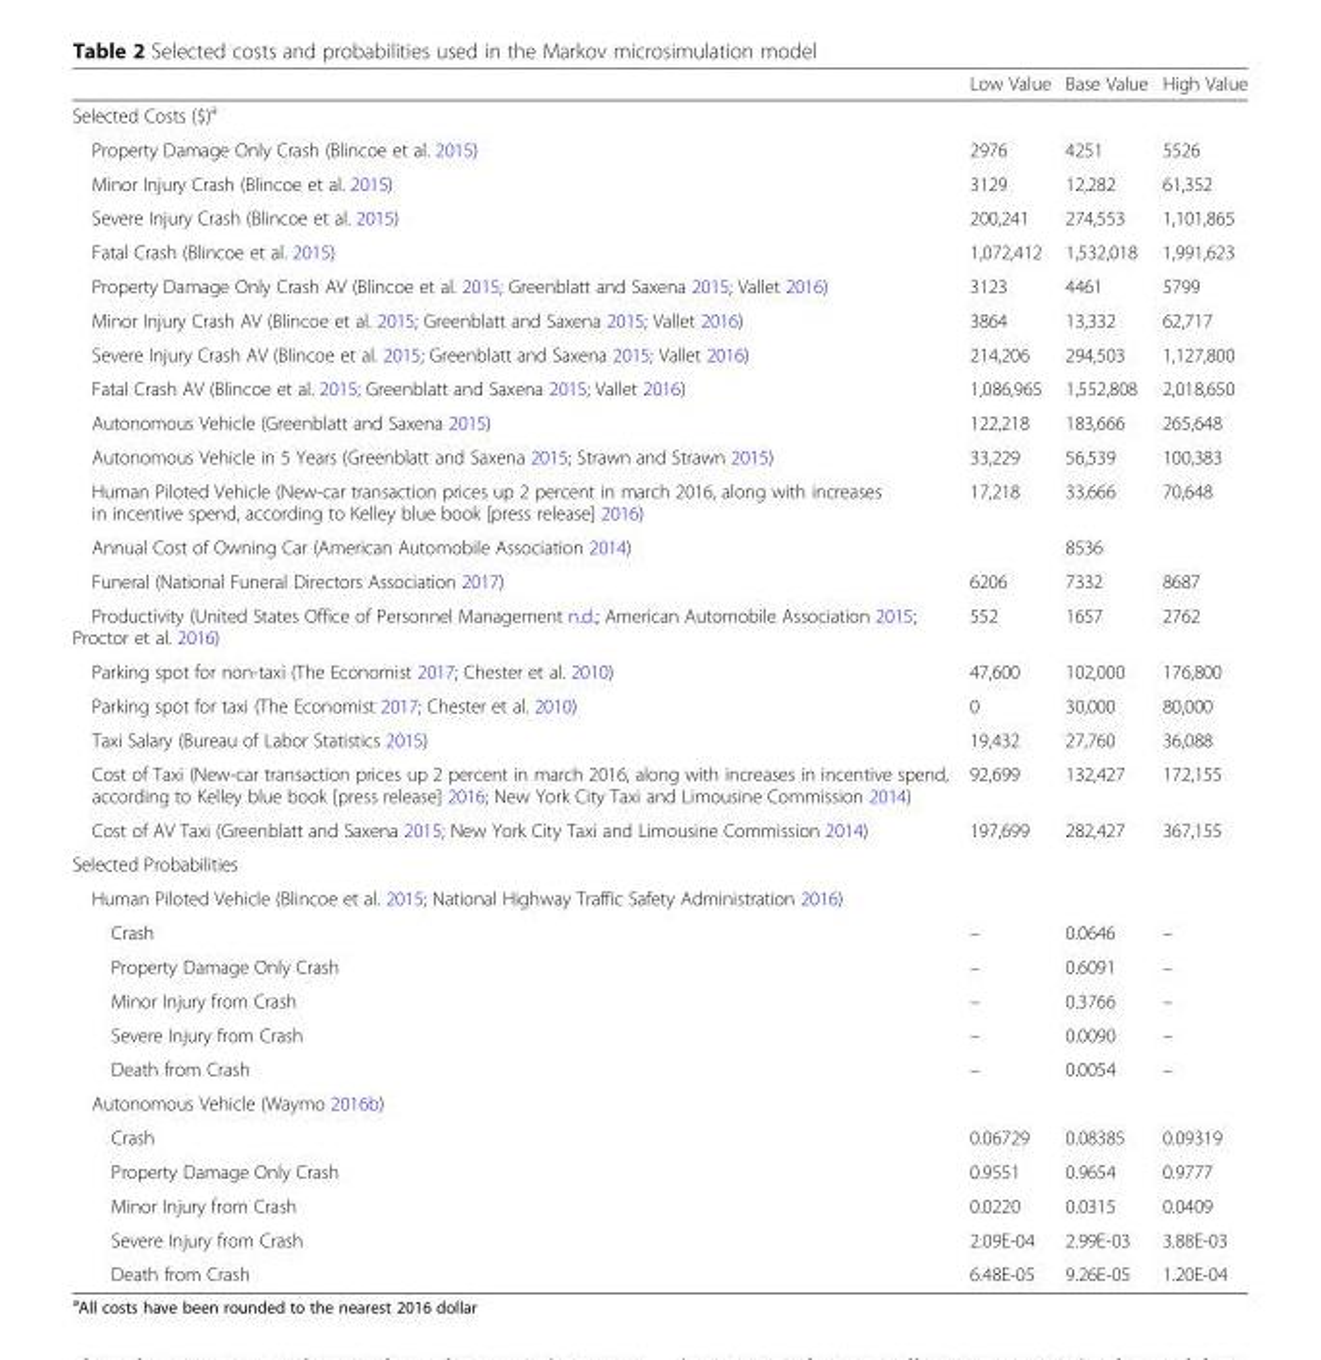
<table><thead><tr><td></td><td>Low Value</td><td>Base Value</td><td>High Value</td></tr></thead><tbody><tr><td colspan="4">Selected Costs ($)<sup>a</sup></td></tr><tr><td>Property Damage Only Crash (Blincoe et al. 2015)</td><td>2976</td><td>4251</td><td>5526</td></tr><tr><td>Minor Injury Crash (Blincoe et al. 2015)</td><td>3129</td><td>12,282</td><td>61,352</td></tr><tr><td>Severe Injury Crash (Blincoe et al. 2015)</td><td>200,241</td><td>274,553</td><td>1,101,865</td></tr><tr><td>Fatal Crash (Blincoe et al. 2015)</td><td>1,072,412</td><td>1,532,018</td><td>1,991,623</td></tr><tr><td>Property Damage Only Crash AV (Blincoe et al. 2015; Greenblatt and Saxena 2015; Vallet 2016)</td><td>3123</td><td>4461</td><td>5799</td></tr><tr><td>Minor Injury Crash AV (Blincoe et al. 2015; Greenblatt and Saxena 2015; Vallet 2016)</td><td>3864</td><td>13,332</td><td>62,717</td></tr><tr><td>Severe Injury Crash AV (Blincoe et al. 2015; Greenblatt and Saxena 2015; Vallet 2016)</td><td>214,206</td><td>294,503</td><td>1,127,800</td></tr><tr><td>Fatal Crash AV (Blincoe et al. 2015; Greenblatt and Saxena 2015; Vallet 2016)</td><td>1,086,965</td><td>1,552,808</td><td>2,018,650</td></tr><tr><td>Autonomous Vehicle (Greenblatt and Saxena 2015)</td><td>122,218</td><td>183,666</td><td>265,648</td></tr><tr><td>Autonomous Vehicle in 5 Years (Greenblatt and Saxena 2015; Strawn and Strawn 2015)</td><td>33,229</td><td>56,539</td><td>100,383</td></tr><tr><td>Human Piloted Vehicle (New-car transaction prices up 2 percent in march 2016, along with increases in incentive spend, according to Kelley blue book [press release] 2016)</td><td>17,218</td><td>33,666</td><td>70,648</td></tr><tr><td>Annual Cost of Owning Car (American Automobile Association 2014)</td><td></td><td>8536</td><td></td></tr><tr><td>Funeral (National Funeral Directors Association 2017)</td><td>6206</td><td>7332</td><td>8687</td></tr><tr><td>Productivity (United States Office of Personnel Management n.d.; American Automobile Association 2015; Proctor et al. 2016)</td><td>552</td><td>1657</td><td>2762</td></tr><tr><td>Parking spot for non-taxi (The Economist 2017; Chester et al. 2010)</td><td>47,600</td><td>102,000</td><td>176,800</td></tr><tr><td>Parking spot for taxi (The Economist 2017; Chester et al. 2010)</td><td>0</td><td>30,000</td><td>80,000</td></tr><tr><td>Taxi Salary (Bureau of Labor Statistics 2015)</td><td>19,432</td><td>27,760</td><td>36,088</td></tr><tr><td>Cost of Taxi (New-car transaction prices up 2 percent in march 2016, along with increases in incentive spend, according to Kelley blue book [press release] 2016; New York City Taxi and Limousine Commission 2014)</td><td>92,699</td><td>132,427</td><td>172,155</td></tr><tr><td>Cost of AV Taxi (Greenblatt and Saxena 2015; New York City Taxi and Limousine Commission 2014)</td><td>197,699</td><td>282,427</td><td>367,155</td></tr><tr><td colspan="4">Selected Probabilities</td></tr><tr><td colspan="4">Human Piloted Vehicle (Blincoe et al. 2015; National Highway Traffic Safety Administration 2016)</td></tr><tr><td>Crash</td><td>–</td><td>0.0646</td><td>–</td></tr><tr><td>Property Damage Only Crash</td><td>–</td><td>0.6091</td><td>–</td></tr><tr><td>Minor Injury from Crash</td><td>–</td><td>0.3766</td><td>–</td></tr><tr><td>Severe Injury from Crash</td><td>–</td><td>0.0090</td><td>–</td></tr><tr><td>Death from Crash</td><td>–</td><td>0.0054</td><td>–</td></tr><tr><td colspan="4">Autonomous Vehicle (Waymo 2016b)</td></tr><tr><td>Crash</td><td>0.06729</td><td>0.08385</td><td>0.09319</td></tr><tr><td>Property Damage Only Crash</td><td>0.9551</td><td>0.9654</td><td>0.9777</td></tr><tr><td>Minor Injury from Crash</td><td>0.0220</td><td>0.0315</td><td>0.0409</td></tr><tr><td>Severe Injury from Crash</td><td>2.09E-04</td><td>2.99E-03</td><td>3.88E-03</td></tr><tr><td>Death from Crash</td><td>6.48E-05</td><td>9.26E-05</td><td>1.20E-04</td></tr></tbody></table>